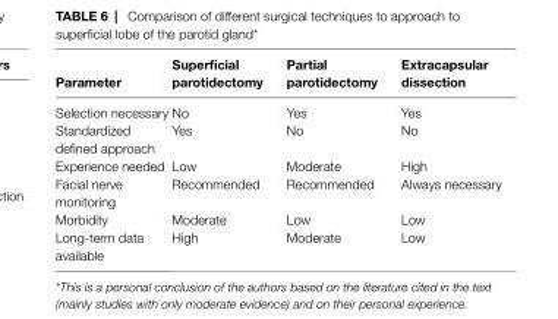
<table><thead><tr><td>Parameter</td><td>superficial parotidectomy</td><td>Partial parotidectomy</td><td>extracapsular dissection</td></tr></thead><tbody><tr><td>Selection necessary</td><td>No</td><td>Yes</td><td>Yes</td></tr><tr><td>Standardized defined approach</td><td>Yes</td><td>No</td><td>No</td></tr><tr><td>Experience needed</td><td>Low</td><td>Moderate</td><td>High</td></tr><tr><td>Facial nerve monitoring</td><td>Recommended</td><td>Recommended</td><td>Always necessary</td></tr><tr><td>Morbidity</td><td>Moderate</td><td>Low</td><td>Low</td></tr><tr><td>Long-term data available</td><td>High</td><td>Moderate</td><td>Low</td></tr></tbody></table>